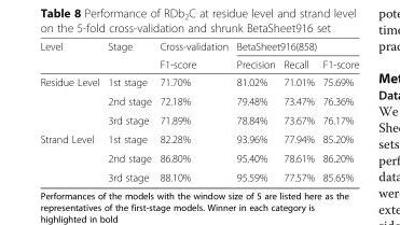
<table><thead><tr><td rowspan="2">Level</td><td rowspan="2">Stage</td><td rowspan="2">Cross-validation F1-score</td><td colspan="3">BetaSheet916(858)</td></tr><tr><td>Precision</td><td>Recall</td><td>F1-score</td></tr></thead><tbody><tr><td rowspan="3">Residue Level</td><td>1st stage</td><td>71.70%</td><td>81.02%</td><td>71.01%</td><td>75.69%</td></tr><tr><td>2nd stage</td><td>72.18%</td><td>79.48%</td><td>73.47%</td><td>76.36%</td></tr><tr><td>3rd stage</td><td>71.89%</td><td>78.84%</td><td>73.67%</td><td>76.17%</td></tr><tr><td rowspan="3">Strand Level</td><td>1st stage</td><td>82.28%</td><td>93.96%</td><td>77.94%</td><td>85.20%</td></tr><tr><td>2nd stage</td><td>86.80%</td><td>95.40%</td><td>78.61%</td><td>86.20%</td></tr><tr><td>3rd stage</td><td>88.10%</td><td>95.59%</td><td>77.57%</td><td>85.65%</td></tr></tbody></table>